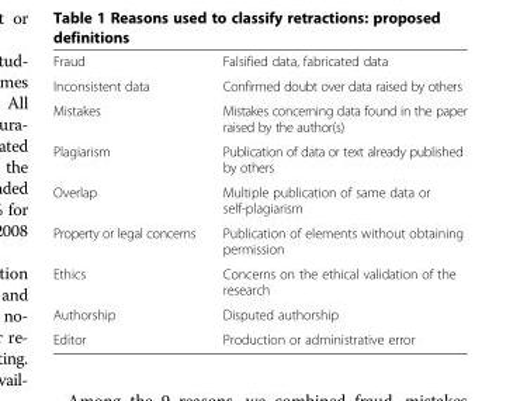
<table><tbody><tr><td>Fraud</td><td>Falsified data, fabricated data</td></tr><tr><td>Inconsistent data</td><td>Confirmed doubt over data raised by others</td></tr><tr><td>Mistakes</td><td>Mistakes concerning data found in the paper raised by the author(s)</td></tr><tr><td>Plagiarism</td><td>Publication of data or text already published by others</td></tr><tr><td>Overlap</td><td>Multiple publication of same data or self-plagiarism</td></tr><tr><td>Property or legal concerns</td><td>Publication of elements without obtaining permission</td></tr><tr><td>Ethics</td><td>Concerns on the ethical validation of the research</td></tr><tr><td>Authorship</td><td>Disputed authorship</td></tr><tr><td>Editor</td><td>Production or administrative error</td></tr></tbody></table>